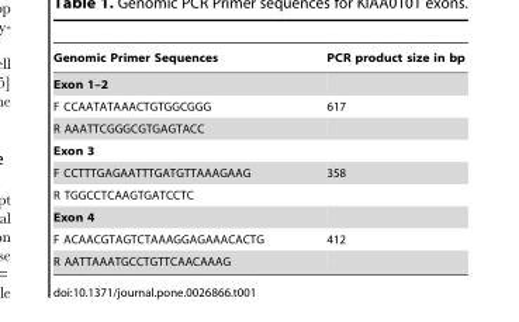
<table><thead><tr><td>Genomic Primer Sequences</td><td>PCR product size in bp</td></tr></thead><tbody><tr><td colspan="2">Exon 1–2</td></tr><tr><td>F CCAATATAAACTGTGGCGGG</td><td>617</td></tr><tr><td colspan="2">R AAATTCGGGCGTGAGTACC</td></tr><tr><td colspan="2">Exon 3</td></tr><tr><td>F CCTTTGAGAATTTGATGTTAAAGAAG</td><td>358</td></tr><tr><td colspan="2">R TGGCCTCAAGTGATCCTC</td></tr><tr><td colspan="2">Exon 4</td></tr><tr><td>F ACAACGTAGTCTAAAGGAGAAACACTG</td><td>412</td></tr><tr><td>R AATTAAATGCCTGTTCAACAAAG</td><td></td></tr></tbody></table>